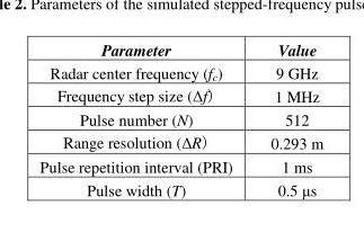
<table><thead><tr><td>Parameter</td><td>Value</td></tr></thead><tbody><tr><td>Radar center frequency (f<sub>c</sub>)</td><td>9 GHz</td></tr><tr><td>Frequency step size (∆f)</td><td>1 MHz</td></tr><tr><td>Pulse number (N)</td><td>512</td></tr><tr><td>Range resolution (∆R)</td><td>0.293 m</td></tr><tr><td>Pulse repetition interval (PRI)</td><td>1 ms</td></tr><tr><td>Pulse width (T)</td><td>0.5 µs</td></tr></tbody></table>